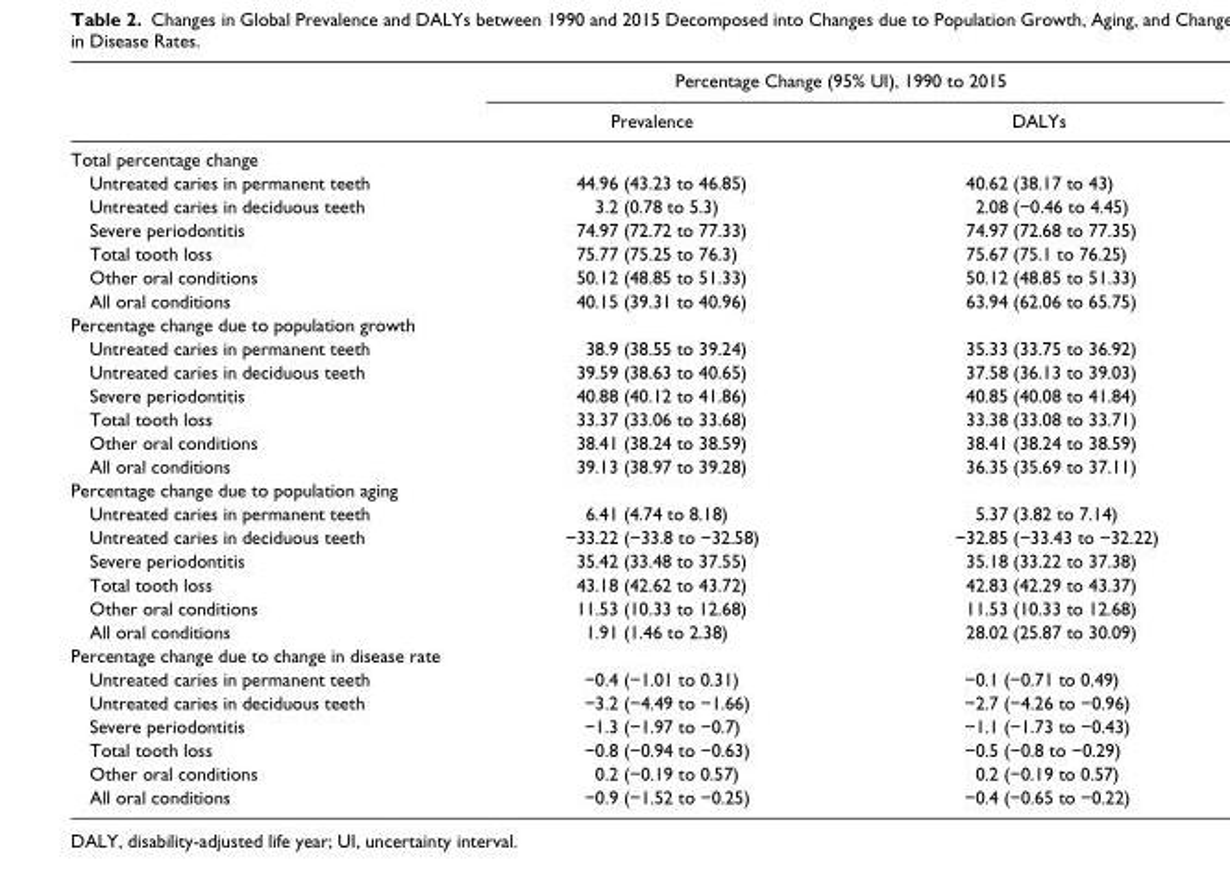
<table><thead><tr><td rowspan="2"></td><td colspan="2">Percentage Change (95% UI), 1990 to 2015</td></tr><tr><td>Prevalence</td><td>DALYs</td></tr></thead><tbody><tr><td colspan="3">Total percentage change</td></tr><tr><td>Untreated caries in permanent teeth</td><td>44.96 (43.23 to 46.85)</td><td>40.62 (38.17 to 43)</td></tr><tr><td>Untreated caries in deciduous teeth</td><td>3.2 (0.78 to 5.3)</td><td>2.08 (−0.46 to 4.45)</td></tr><tr><td>Severe periodontitis</td><td>74.97 (72.72 to 77.33)</td><td>74.97 (72.68 to 77.35)</td></tr><tr><td>Total tooth loss</td><td>75.77 (75.25 to 76.3)</td><td>75.67 (75.1 to 76.25)</td></tr><tr><td>Other oral conditions</td><td>50.12 (48.85 to 51.33)</td><td>50.12 (48.85 to 51.33)</td></tr><tr><td>All oral conditions</td><td>40.15 (39.31 to 40.96)</td><td>63.94 (62.06 to 65.75)</td></tr><tr><td colspan="3">Percentage change due to population growth</td></tr><tr><td>Untreated caries in permanent teeth</td><td>38.9 (38.55 to 39.24)</td><td>35.33 (33.75 to 36.92)</td></tr><tr><td>Untreated caries in deciduous teeth</td><td>39.59 (38.63 to 40.65)</td><td>37.58 (36.13 to 39.03)</td></tr><tr><td>Severe periodontitis</td><td>40.88 (40.12 to 41.86)</td><td>40.85 (40.08 to 41.84)</td></tr><tr><td>Total tooth loss</td><td>33.37 (33.06 to 33.68)</td><td>33.38 (33.08 to 33.71)</td></tr><tr><td>Other oral conditions</td><td>38.41 (38.24 to 38.59)</td><td>38.41 (38.24 to 38.59)</td></tr><tr><td>All oral conditions</td><td>39.13 (38.97 to 39.28)</td><td>36.35 (35.69 to 37.11)</td></tr><tr><td colspan="3">Percentage change due to population aging</td></tr><tr><td>Untreated caries in permanent teeth</td><td>6.41 (4.74 to 8.18)</td><td>5.37 (3.82 to 7.14)</td></tr><tr><td>Untreated caries in deciduous teeth</td><td>−33.22 (−33.8 to −32.58)</td><td>−32.85 (−33.43 to −32.22)</td></tr><tr><td>Severe periodontitis</td><td>35.42 (33.48 to 37.55)</td><td>35.18 (33.22 to 37.38)</td></tr><tr><td>Total tooth loss</td><td>43.18 (42.62 to 43.72)</td><td>42.83 (42.29 to 43.37)</td></tr><tr><td>Other oral conditions</td><td>11.53 (10.33 to 12.68)</td><td>11.53 (10.33 to 12.68)</td></tr><tr><td>All oral conditions</td><td>1.91 (1.46 to 2.38)</td><td>28.02 (25.87 to 30.09)</td></tr><tr><td colspan="3">Percentage change due to change in disease rate</td></tr><tr><td>Untreated caries in permanent teeth</td><td>−0.4 (−1.01 to 0.31)</td><td>−0.1 (−0.71 to 0.49)</td></tr><tr><td>Untreated caries in deciduous teeth</td><td>−3.2 (−4.49 to −1.66)</td><td>−2.7 (−4.26 to −0.96)</td></tr><tr><td>Severe periodontitis</td><td>−1.3 (−1.97 to −0.7)</td><td>−1.1 (−1.73 to −0.43)</td></tr><tr><td>Total tooth loss</td><td>−0.8 (−0.94 to −0.63)</td><td>−0.5 (−0.8 to −0.29)</td></tr><tr><td>Other oral conditions</td><td>0.2 (−0.19 to 0.57)</td><td>0.2 (−0.19 to 0.57)</td></tr><tr><td>All oral conditions</td><td>−0.9 (−1.52 to −0.25)</td><td>−0.4 (−0.65 to −0.22)</td></tr></tbody></table>